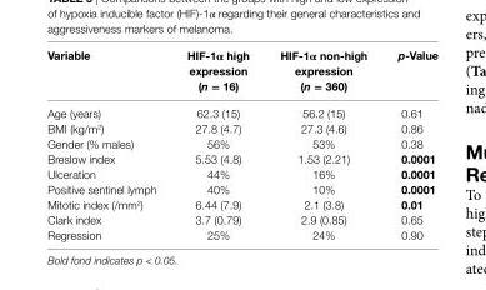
<table><thead><tr><td>Variable</td><td>hiF-1α high expression (n = 16)</td><td>hiF-1α non-high expression (n = 360)</td><td>p-Value</td></tr></thead><tbody><tr><td>Age (years)</td><td>62.3 (15)</td><td>56.2 (15)</td><td>0.61</td></tr><tr><td>BMI (kg/m<sup>2</sup>)</td><td>27.8 (4.7)</td><td>27.3 (4.6)</td><td>0.86</td></tr><tr><td>Gender (% males)</td><td>56%</td><td>53%</td><td>0.38</td></tr><tr><td>Breslow index</td><td>5.53 (4.8)</td><td>1.53 (2.21)</td><td>0.0001</td></tr><tr><td>Ulceration</td><td>44%</td><td>16%</td><td>0.0001</td></tr><tr><td>Positive sentinel lymph</td><td>40%</td><td>10%</td><td>0.0001</td></tr><tr><td>Mitotic index (/mm<sup>2</sup>)</td><td>6.44 (7.9)</td><td>2.1 (3.8)</td><td>0.01</td></tr><tr><td>Clark index</td><td>3.7 (0.79)</td><td>2.9 (0.85)</td><td>0.65</td></tr><tr><td>Regression</td><td>25%</td><td>24%</td><td>0.90</td></tr></tbody></table>